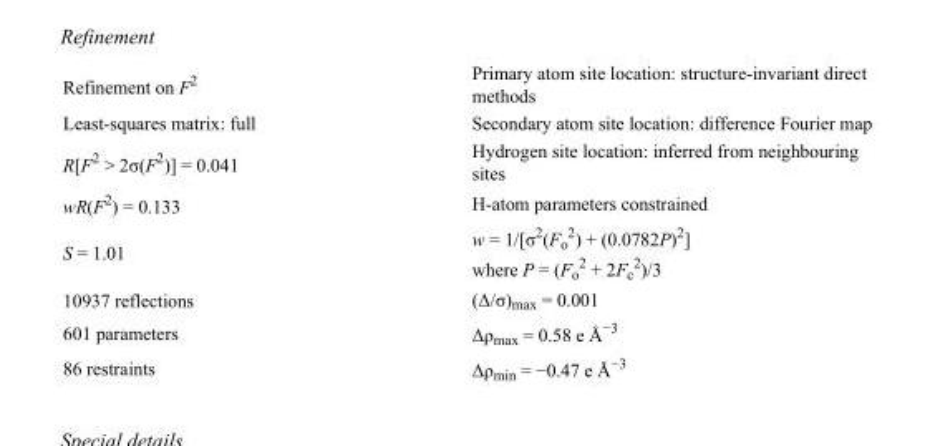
<table><tbody><tr><td>Refinement on F<sup>2</sup></td><td>Primary atom site location: structure-invariant direct methods</td></tr><tr><td>Least-squares matrix: full</td><td>Secondary atom site location: difference Fourier map</td></tr><tr><td>R[F<sup>2</sup> &gt; 2σ(F<sup>2</sup>)] = 0.041</td><td>Hydrogen site location: inferred from neighbouring sites</td></tr><tr><td>wR(F<sup>2</sup>) = 0.133</td><td>H-atom parameters constrained</td></tr><tr><td>S = 1.01</td><td>w = 1/[σ<sup>2</sup>(F<sub>o</sub> <sup>2</sup>) + (0.0782P)<sup>2</sup>] where P = (F<sub>o</sub> <sup>2</sup> + 2F<sub>c</sub> <sup>2</sup>)/3</td></tr><tr><td>10937 reflections</td><td>(Δ/σ)<sub>max</sub> = 0.001</td></tr><tr><td>601 parameters</td><td>Δρ<sub>max</sub> = 0.58 e Å<sup>−3</sup></td></tr><tr><td>86 restraints</td><td>Δρ<sub>min</sub> = −0.47 e Å<sup>−3</sup></td></tr></tbody></table>